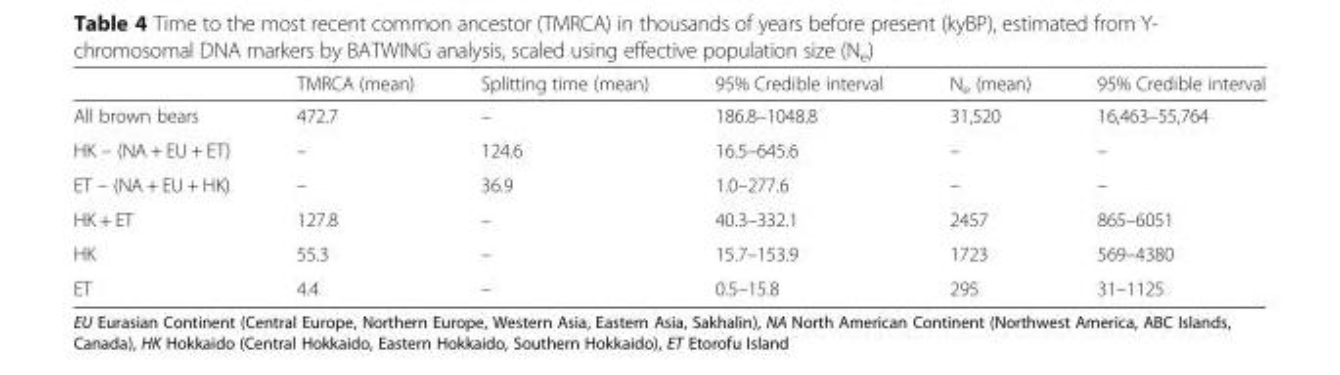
<table><thead><tr><td></td><td>TMRCA (mean)</td><td>Splitting time (mean)</td><td>95% Credible interval</td><td>N<sub>e</sub> (mean)</td><td>95% Credible interval</td></tr></thead><tbody><tr><td>All brown bears</td><td>472.7</td><td>–</td><td>186.8–1048.8</td><td>31,520</td><td>16,463–55,764</td></tr><tr><td>HK – (NA + EU + ET)</td><td>–</td><td>124.6</td><td>16.5–645.6</td><td>–</td><td>–</td></tr><tr><td>ET – (NA + EU + HK)</td><td>–</td><td>36.9</td><td>1.0–277.6</td><td>–</td><td>–</td></tr><tr><td>HK + ET</td><td>127.8</td><td>–</td><td>40.3–332.1</td><td>2457</td><td>865–6051</td></tr><tr><td>HK</td><td>55.3</td><td>–</td><td>15.7–153.9</td><td>1723</td><td>569–4380</td></tr><tr><td>ET</td><td>4.4</td><td>–</td><td>0.5–15.8</td><td>295</td><td>31–1125</td></tr></tbody></table>